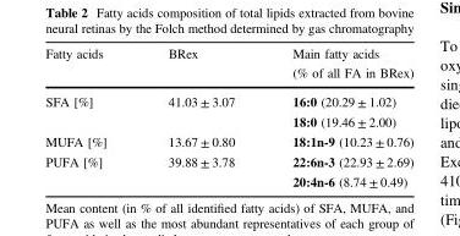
<table><thead><tr><td rowspan="2">Fatty acids</td><td rowspan="2">BRex</td><td rowspan="2">Main fatty acids (% of all FA in BRex)</td></tr><tr></tr></thead><tbody><tr><td rowspan="2">SFA [%]</td><td>41.03 ± 3.07</td><td>16:0 (20.29 ± 1.02)</td></tr><tr><td></td><td>18:0 (19.46 ± 2.00)</td></tr><tr><td>MUFA [%]</td><td>13.67 ± 0.80</td><td>18:1n-9 (10.23 ± 0.76)</td></tr><tr><td rowspan="2">PUFA [%]</td><td>39.88 ± 3.78</td><td>22:6n-3 (22.93 ± 2.69)</td></tr><tr><td></td><td>20:4n-6 (8.74 ± 0.49)</td></tr></tbody></table>